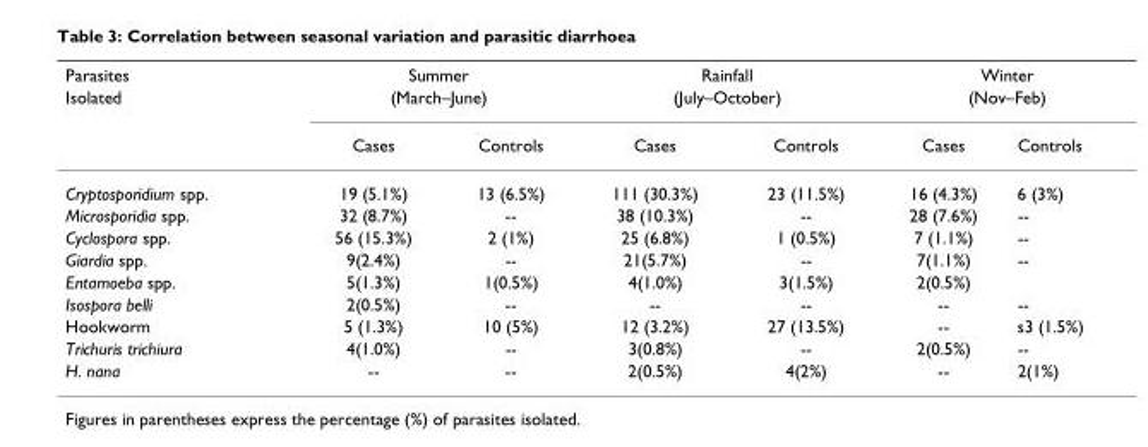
<table><thead><tr><td rowspan="3">Parasites Isolated</td><td rowspan="2" colspan="2">Summer (March–June)</td><td rowspan="2" colspan="2">Rainfall (July–October)</td><td rowspan="2" colspan="2">Winter (Nov–Feb)</td></tr><tr></tr><tr><td>Cases</td><td>Controls</td><td>Cases</td><td>Controls</td><td>Cases</td><td>Controls</td></tr></thead><tbody><tr><td>Cryptosporidium spp.</td><td>19 (5.1%)</td><td>13 (6.5%)</td><td>111 (30.3%)</td><td>23 (11.5%)</td><td>16 (4.3%)</td><td>6 (3%)</td></tr><tr><td>Microsporidia spp.</td><td>32 (8.7%)</td><td>--</td><td>38 (10.3%)</td><td>--</td><td>28 (7.6%)</td><td>--</td></tr><tr><td>Cyclospora spp.</td><td>56 (15.3%)</td><td>2 (1%)</td><td>25 (6.8%)</td><td>1 (0.5%)</td><td>7 (1.1%)</td><td>--</td></tr><tr><td>Giardia spp.</td><td>9(2.4%)</td><td>--</td><td>21(5.7%)</td><td>--</td><td>7(1.1%)</td><td>--</td></tr><tr><td>Entamoeba spp.</td><td>5(1.3%)</td><td>1(0.5%)</td><td>4(1.0%)</td><td>3(1.5%)</td><td>2(0.5%)</td><td></td></tr><tr><td>Isospora belli</td><td>2(0.5%)</td><td>--</td><td>--</td><td>--</td><td>--</td><td>--</td></tr><tr><td>Hookworm</td><td>5 (1.3%)</td><td>10 (5%)</td><td>12 (3.2%)</td><td>27 (13.5%)</td><td>--</td><td>s3 (1.5%)</td></tr><tr><td>Trichuris trichiura</td><td>4(1.0%)</td><td>--</td><td>3(0.8%)</td><td>--</td><td>2(0.5%)</td><td>--</td></tr><tr><td>H. nana</td><td>--</td><td>--</td><td>2(0.5%)</td><td>4(2%)</td><td>--</td><td>2(1%)</td></tr></tbody></table>